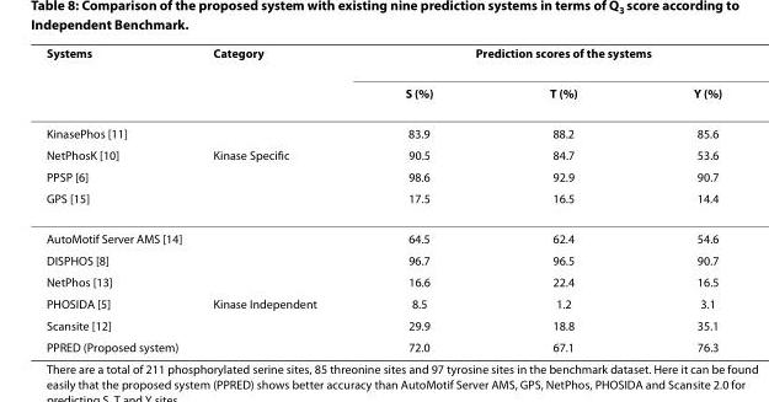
<table><thead><tr><td rowspan="2">Systems</td><td rowspan="2">Category</td><td colspan="3">Prediction scores of the systems</td></tr><tr><td>S (%)</td><td>T (%)</td><td>Y (%)</td></tr></thead><tbody><tr><td>KinasePhos [11]</td><td></td><td>83.9</td><td>88.2</td><td>85.6</td></tr><tr><td>NetPhosK [10]</td><td>Kinase Specific</td><td>90.5</td><td>84.7</td><td>53.6</td></tr><tr><td>PPSP [6]</td><td></td><td>98.6</td><td>92.9</td><td>90.7</td></tr><tr><td>GPS [15]</td><td></td><td>17.5</td><td>16.5</td><td>14.4</td></tr><tr><td>AutoMotif Server AMS [14]</td><td></td><td>64.5</td><td>62.4</td><td>54.6</td></tr><tr><td>DISPHOS [8]</td><td></td><td>96.7</td><td>96.5</td><td>90.7</td></tr><tr><td>NetPhos [13]</td><td></td><td>16.6</td><td>22.4</td><td>16.5</td></tr><tr><td>PHOSIDA [5]</td><td>Kinase Independent</td><td>8.5</td><td>1.2</td><td>3.1</td></tr><tr><td>Scansite [12]</td><td></td><td>29.9</td><td>18.8</td><td>35.1</td></tr><tr><td>PPRED (Proposed system)</td><td></td><td>72.0</td><td>67.1</td><td>76.3</td></tr></tbody></table>